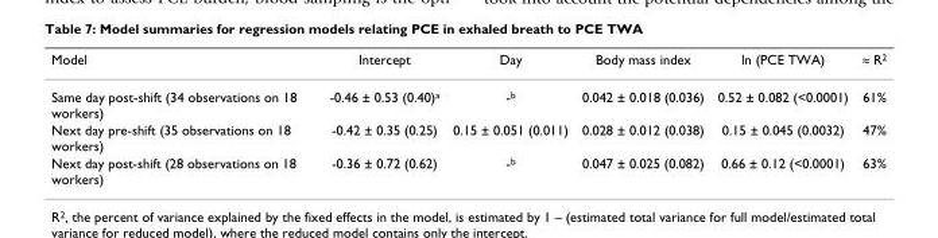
<table><thead><tr><td>Model</td><td>Intercept</td><td>Day</td><td>Body mass index</td><td>ln (PCE TWA)</td><td>≈ R<sup>2</sup></td></tr></thead><tbody><tr><td>Same day post-shift (34 observations on 18 workers)</td><td>-0.46 ± 0.53 (0.40)<sup>a</sup></td><td>-<sup>b</sup></td><td>0.042 ± 0.018 (0.036)</td><td>0.52 ± 0.082 (&lt;0.0001)</td><td>61%</td></tr><tr><td>Next day pre-shift (35 observations on 18 workers)</td><td>-0.42 ± 0.35 (0.25)</td><td>0.15 ± 0.051 (0.011)</td><td>0.028 ± 0.012 (0.038)</td><td>0.15 ± 0.045 (0.0032)</td><td>47%</td></tr><tr><td>Next day post-shift (28 observations on 18 workers)</td><td>-0.36 ± 0.72 (0.62)</td><td>-<sup>b</sup></td><td>0.047 ± 0.025 (0.082)</td><td>0.66 ± 0.12 (&lt;0.0001)</td><td>63%</td></tr></tbody></table>